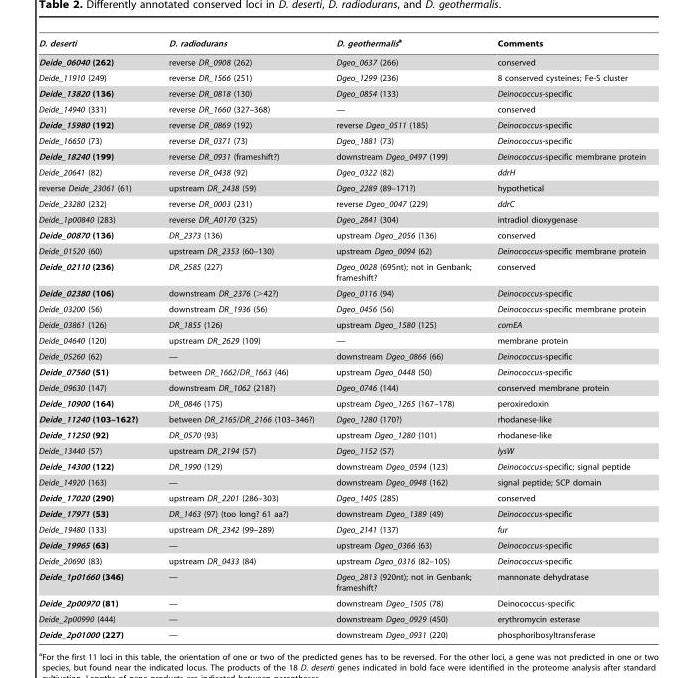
<table><thead><tr><td>D. deserti</td><td>D. radiodurans</td><td>D. geothermalisa</td><td>Comments</td></tr></thead><tbody><tr><td>Deide_06040 (262)</td><td>reverse DR_0908 (262)</td><td>Dgeo_0637 (266)</td><td>conserved</td></tr><tr><td>Deide_11910 (249)</td><td>reverse DR_1566 (251)</td><td>Dgeo_1299 (236)</td><td>8 conserved cysteines; Fe-S cluster</td></tr><tr><td>Deide_13820 (136)</td><td>reverse DR_0818 (130)</td><td>Dgeo_0854 (133)</td><td>Deinococcus-specific</td></tr><tr><td>Deide_14940 (331)</td><td>reverse DR_1660 (327–368)</td><td>—</td><td>conserved</td></tr><tr><td>Deide_15980 (192)</td><td>reverse DR_0869 (192)</td><td>reverse Dgeo_0511 (185)</td><td>Deinococcus-specific</td></tr><tr><td>Deide_16650 (73)</td><td>reverse DR_0371 (73)</td><td>Dgeo_1881 (73)</td><td>Deinococcus-specific</td></tr><tr><td>Deide_18240 (199)</td><td>reverse DR_0931 (frameshift?)</td><td>downstream Dgeo_0497 (199)</td><td>Deinococcus-specific membrane protein</td></tr><tr><td>Deide_20641 (82)</td><td>reverse DR_0438 (92)</td><td>Dgeo_0322 (82)</td><td>ddrH</td></tr><tr><td>reverse Deide_23061 (61)</td><td>upstream DR_2438 (59)</td><td>Dgeo_2289 (89–171?)</td><td>hypothetical</td></tr><tr><td>Deide_23280 (232)</td><td>reverse DR_0003 (231)</td><td>reverse Dgeo_0047 (229)</td><td>ddrC</td></tr><tr><td>Deide_1p00840 (283)</td><td>reverse DR_A0170 (325)</td><td>Dgeo_2841 (304)</td><td>intradiol dioxygenase</td></tr><tr><td>Deide_00870 (136)</td><td>DR_2373 (136)</td><td>upstream Dgeo_2056 (136)</td><td>conserved</td></tr><tr><td>Deide_01520 (60)</td><td>upstream DR_2353 (60–130)</td><td>upstream Dgeo_0094 (62)</td><td>Deinococcus-specific membrane protein</td></tr><tr><td>Deide_02110 (236)</td><td>DR_2585 (227)</td><td>Dgeo_0028 (695nt); not in Genbank; frameshift?</td><td>conserved</td></tr><tr><td>Deide_02380 (106)</td><td>downstream DR_2376 (&gt;42?)</td><td>Dgeo_0116 (94)</td><td>Deinococcus-specific</td></tr><tr><td>Deide_03200 (56)</td><td>downstream DR_1936 (56)</td><td>Dgeo_0456 (56)</td><td>Deinococcus-specific membrane protein</td></tr><tr><td>Deide_03861 (126)</td><td>DR_1855 (126)</td><td>upstream Dgeo_1580 (125)</td><td>comEA</td></tr><tr><td>Deide_04640 (120)</td><td>upstream DR_2629 (109)</td><td>—</td><td>membrane protein</td></tr><tr><td>Deide_05260 (62)</td><td>—</td><td>downstream Dgeo_0866 (66)</td><td>Deinococcus-specific</td></tr><tr><td>Deide_07560 (51)</td><td>between DR_1662/DR_1663 (46)</td><td>upstream Dgeo_0448 (50)</td><td>Deinococcus-specific</td></tr><tr><td>Deide_09630 (147)</td><td>downstream DR_1062 (218?)</td><td>Dgeo_0746 (144)</td><td>conserved membrane protein</td></tr><tr><td>Deide_10900 (164)</td><td>DR_0846 (175)</td><td>upstream Dgeo_1265 (167–178)</td><td>peroxiredoxin</td></tr><tr><td>Deide_11240 (103–162?)</td><td>between DR_2165/DR_2166 (103–346?)</td><td>Dgeo_1280 (170?)</td><td>rhodanese-like</td></tr><tr><td>Deide_11250 (92)</td><td>DR_0570 (93)</td><td>upstream Dgeo_1280 (101)</td><td>rhodanese-like</td></tr><tr><td>Deide_13440 (57)</td><td>upstream DR_2194 (57)</td><td>Dgeo_1152 (57)</td><td>lysW</td></tr><tr><td>Deide_14300 (122)</td><td>DR_1990 (129)</td><td>downstream Dgeo_0594 (123)</td><td>Deinococcus-specific; signal peptide</td></tr><tr><td>Deide_14920 (163)</td><td>—</td><td>downstream Dgeo_0948 (162)</td><td>signal peptide; SCP domain</td></tr><tr><td>Deide_17020 (290)</td><td>upstream DR_2201 (286–303)</td><td>Dgeo_1405 (285)</td><td>conserved</td></tr><tr><td>Deide_17971 (53)</td><td>DR_1463 (97) (too long? 61 aa?)</td><td>downstream Dgeo_1389 (49)</td><td>Deinococcus-specific</td></tr><tr><td>Deide_19480 (133)</td><td>upstream DR_2342 (99–289)</td><td>Dgeo_2141 (137)</td><td>fur</td></tr><tr><td>Deide_19965 (63)</td><td>—</td><td>upstream Dgeo_0366 (63)</td><td>Deinococcus-specific</td></tr><tr><td>Deide_20690 (83)</td><td>upstream DR_0433 (84)</td><td>upstream Dgeo_0316 (82–105)</td><td>Deinococcus-specific</td></tr><tr><td>Deide_1p01660 (346)</td><td>—</td><td>Dgeo_2813 (920nt); not in Genbank; frameshift?</td><td>mannonate dehydratase</td></tr><tr><td>Deide_2p00970 (81)</td><td>—</td><td>downstream Dgeo_1505 (78)</td><td>Deinococcus-specific</td></tr><tr><td>Deide_2p00990 (444)</td><td>—</td><td>downstream Dgeo_0929 (450)</td><td>erythromycin esterase</td></tr><tr><td>Deide_2p01000 (227)</td><td>—</td><td>downstream Dgeo_0931 (220)</td><td>phosphoribosyltransferase</td></tr></tbody></table>